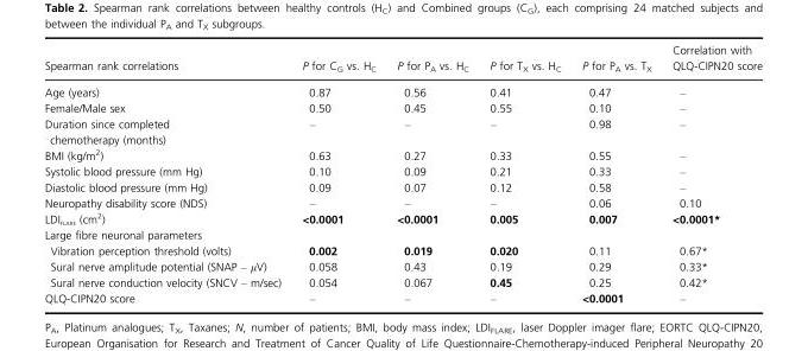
<table><thead><tr><td>Spearman rank correlations</td><td>P for C<sub>G</sub> vs. H<sub>C</sub></td><td>P for P<sub>A</sub> vs. H<sub>C</sub></td><td>P for T<sub>X</sub> vs. H<sub>C</sub></td><td>P for P<sub>A</sub> vs. T<sub>X</sub></td><td>Correlation with QLQ-CIPN20 score</td></tr></thead><tbody><tr><td>Age (years)</td><td>0.87</td><td>0.56</td><td>0.41</td><td>0.47</td><td>–</td></tr><tr><td>Female/Male sex</td><td>0.50</td><td>0.45</td><td>0.55</td><td>0.10</td><td>–</td></tr><tr><td>Duration since completed chemotherapy (months)</td><td>–</td><td>–</td><td>–</td><td>0.98</td><td>–</td></tr><tr><td>BMI (kg/m<sup>2</sup>)</td><td>0.63</td><td>0.27</td><td>0.33</td><td>0.55</td><td>–</td></tr><tr><td>Systolic blood pressure (mm Hg)</td><td>0.10</td><td>0.09</td><td>0.21</td><td>0.33</td><td>–</td></tr><tr><td>Diastolic blood pressure (mm Hg)</td><td>0.09</td><td>0.07</td><td>0.12</td><td>0.58</td><td>–</td></tr><tr><td>Neuropathy disability score (NDS)</td><td>–</td><td>–</td><td>–</td><td>0.06</td><td>0.10</td></tr><tr><td>LDI<sub>FLARE</sub> (cm<sup>2</sup>)</td><td>&lt;0.0001</td><td>&lt;0.0001</td><td>0.005</td><td>0.007</td><td>&lt;0.0001*</td></tr><tr><td colspan="6">Large fibre neuronal parameters</td></tr><tr><td>Vibration perception threshold (volts)</td><td>0.002</td><td>0.019</td><td>0.020</td><td>0.11</td><td>0.67*</td></tr><tr><td>Sural nerve amplitude potential (SNAP – μV)</td><td>0.058</td><td>0.43</td><td>0.19</td><td>0.29</td><td>0.33*</td></tr><tr><td>Sural nerve conduction velocity (SNCV – m/sec)</td><td>0.054</td><td>0.067</td><td>0.45</td><td>0.25</td><td>0.42*</td></tr><tr><td>QLQ-CIPN20 score</td><td>–</td><td>–</td><td>–</td><td>&lt;0.0001</td><td>–</td></tr></tbody></table>